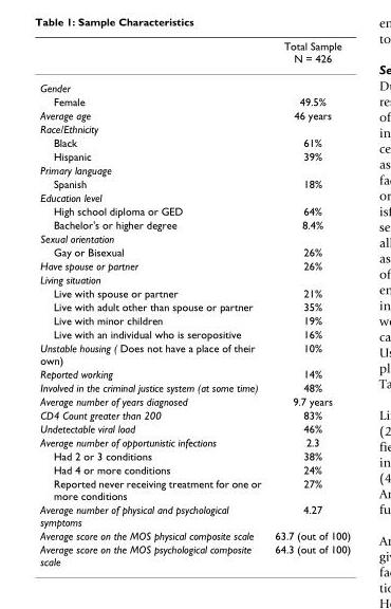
<table><thead><tr><td></td><td>Total Sample N = 426</td></tr></thead><tbody><tr><td colspan="2">Gender</td></tr><tr><td>Female</td><td>49.5%</td></tr><tr><td>Average age</td><td>46 years</td></tr><tr><td colspan="2">Race/Ethnicity</td></tr><tr><td>Black</td><td>61%</td></tr><tr><td>Hispanic</td><td>39%</td></tr><tr><td colspan="2">Primary language</td></tr><tr><td>Spanish</td><td>18%</td></tr><tr><td colspan="2">Education level</td></tr><tr><td>High school diploma or GED</td><td>64%</td></tr><tr><td>Bachelor&#x27;s or higher degree</td><td>8.4%</td></tr><tr><td colspan="2">Sexual orientation</td></tr><tr><td>Gay or Bisexual</td><td>26%</td></tr><tr><td>Have spouse or partner</td><td>26%</td></tr><tr><td colspan="2">Living situation</td></tr><tr><td>Live with spouse or partner</td><td>21%</td></tr><tr><td>Live with adult other than spouse or partner</td><td>35%</td></tr><tr><td>Live with minor children</td><td>19%</td></tr><tr><td>Live with an individual who is seropositive</td><td>16%</td></tr><tr><td>Unstable housing ( Does not have a place of their own)</td><td>10%</td></tr><tr><td>Reported working</td><td>14%</td></tr><tr><td>Involved in the criminal justice system (at some time)</td><td>48%</td></tr><tr><td>Average number of years diagnosed</td><td>9.7 years</td></tr><tr><td>CD4 Count greater than 200</td><td>83%</td></tr><tr><td>Undetectable viral load</td><td>46%</td></tr><tr><td>Average number of opportunistic infections</td><td>2.3</td></tr><tr><td>Had 2 or 3 conditions</td><td>38%</td></tr><tr><td>Had 4 or more conditions</td><td>24%</td></tr><tr><td>Reported never receiving treatment for one or more conditions</td><td>27%</td></tr><tr><td>Average number of physical and psychological symptoms</td><td>4.27</td></tr><tr><td>Average score on the MOS physical composite scale</td><td>63.7 (out of 100)</td></tr><tr><td>Average score on the MOS psychological composite scale</td><td>64.3 (out of 100)</td></tr></tbody></table>